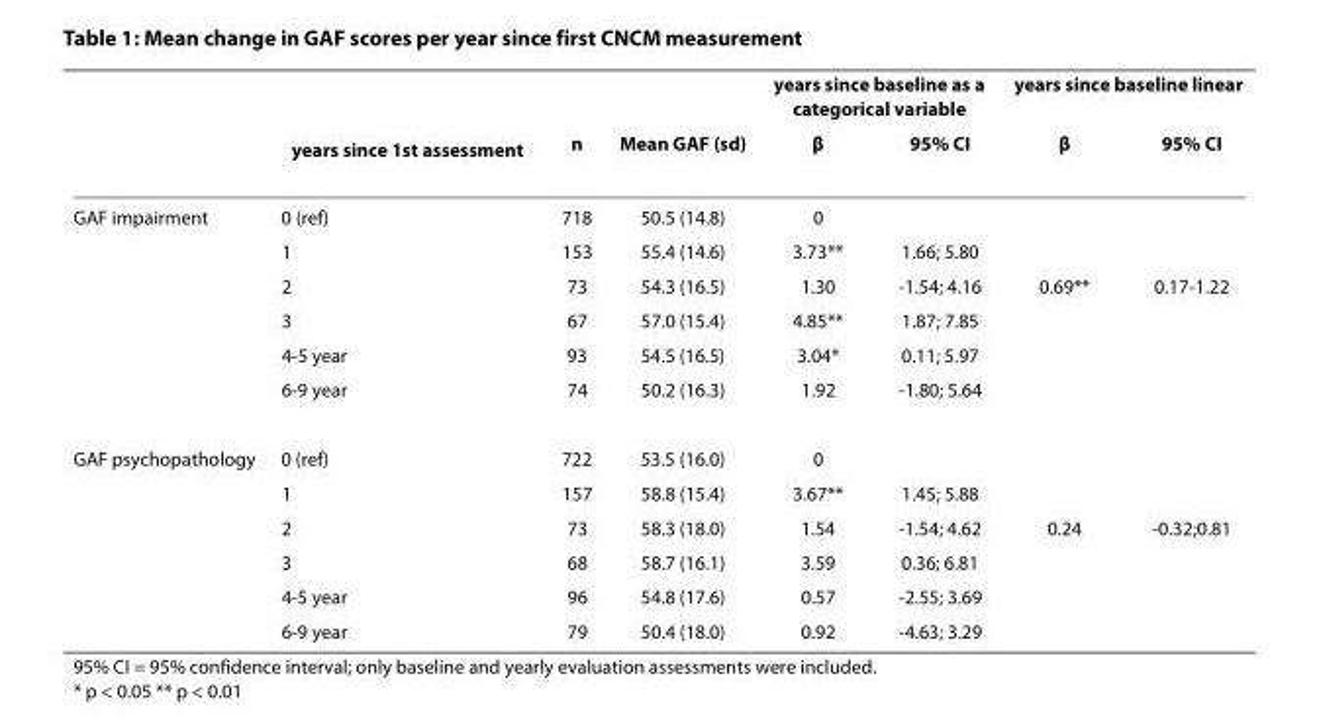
<table><thead><tr><td rowspan="2"></td><td rowspan="2">years since 1<sup>st</sup> assessment</td><td rowspan="2">n</td><td rowspan="2">Mean GAF (sd)</td><td colspan="2">years since baseline as a categorical variable</td><td colspan="2">years since baseline linear</td></tr><tr><td>β</td><td>95% CI</td><td>β</td><td>95% CI</td></tr></thead><tbody><tr><td rowspan="6">GAF impairment</td><td>0 (ref)</td><td>718</td><td>50.5 (14.8)</td><td>0</td><td></td><td></td><td></td></tr><tr><td>1</td><td>153</td><td>55.4 (14.6)</td><td>3.73**</td><td>1.66; 5.80</td><td></td><td></td></tr><tr><td>2</td><td>73</td><td>54.3 (16.5)</td><td>1.30</td><td>-1.54; 4.16</td><td>0.69**</td><td>0.17-1.22</td></tr><tr><td>3</td><td>67</td><td>57.0 (15.4)</td><td>4.85**</td><td>1.87; 7.85</td><td></td><td></td></tr><tr><td>4-5 year</td><td>93</td><td>54.5 (16.5)</td><td>3.04*</td><td>0.11; 5.97</td><td></td><td></td></tr><tr><td>6-9 year</td><td>74</td><td>50.2 (16.3)</td><td>1.92</td><td>-1.80; 5.64</td><td></td><td></td></tr><tr><td rowspan="6">GAF psychopathology</td><td>0 (ref)</td><td>722</td><td>53.5 (16.0)</td><td>0</td><td></td><td></td><td></td></tr><tr><td>1</td><td>157</td><td>58.8 (15.4)</td><td>3.67**</td><td>1.45; 5.88</td><td></td><td></td></tr><tr><td>2</td><td>73</td><td>58.3 (18.0)</td><td>1.54</td><td>-1.54; 4.62</td><td>0.24</td><td>-0.32;0.81</td></tr><tr><td>3</td><td>68</td><td>58.7 (16.1)</td><td>3.59</td><td>0.36; 6.81</td><td></td><td></td></tr><tr><td>4-5 year</td><td>96</td><td>54.8 (17.6)</td><td>0.57</td><td>-2.55; 3.69</td><td></td><td></td></tr><tr><td>6-9 year</td><td>79</td><td>50.4 (18.0)</td><td>0.92</td><td>-4.63; 3.29</td><td></td><td></td></tr></tbody></table>